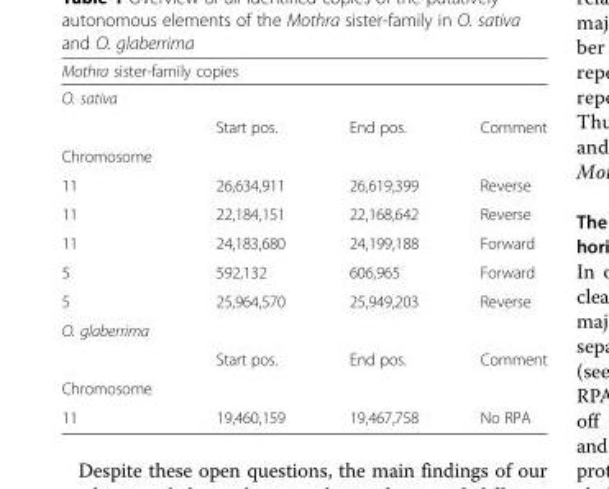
<table><thead><tr><td colspan="2">Mothra sister-family copies</td><td rowspan="2"></td><td rowspan="2"></td></tr><tr><td>O. sativa</td><td></td></tr></thead><tbody><tr><td></td><td>Start pos.</td><td>End pos.</td><td>Comment</td></tr><tr><td colspan="4">Chromosome</td></tr><tr><td>11</td><td>26,634,911</td><td>26,619,399</td><td>Reverse</td></tr><tr><td>11</td><td>22,184,151</td><td>22,168,642</td><td>Reverse</td></tr><tr><td>11</td><td>24,183,680</td><td>24,199,188</td><td>Forward</td></tr><tr><td>5</td><td>592,132</td><td>606,965</td><td>Forward</td></tr><tr><td>5</td><td>25,964,570</td><td>25,949,203</td><td>Reverse</td></tr><tr><td colspan="4">O. glaberrima</td></tr><tr><td></td><td>Start pos.</td><td>End pos.</td><td>Comment</td></tr><tr><td colspan="4">Chromosome</td></tr><tr><td>11</td><td>19,460,159</td><td>19,467,758</td><td>No RPA</td></tr></tbody></table>